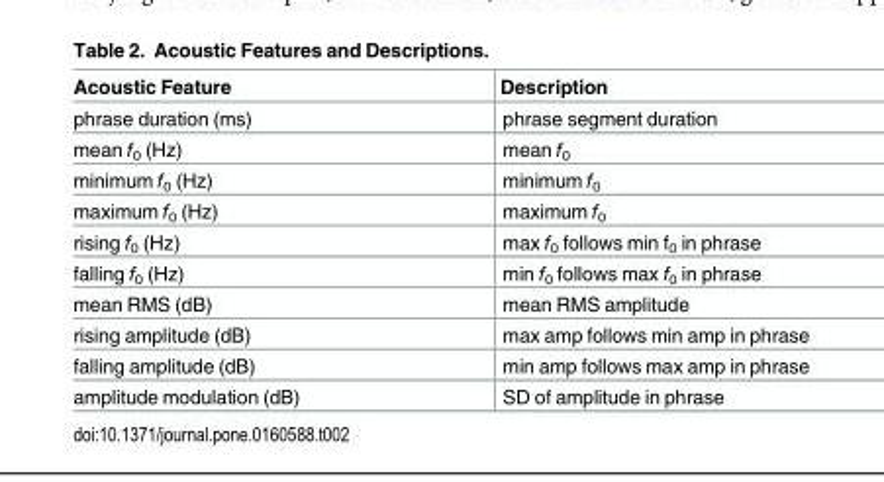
<table><thead><tr><td>Acoustic Feature</td><td>Description</td></tr></thead><tbody><tr><td>phrase duration (ms)</td><td>phrase segment duration</td></tr><tr><td>mean f<sub>0</sub> (Hz)</td><td>mean f<sub>0</sub></td></tr><tr><td>minimum f<sub>0</sub> (Hz)</td><td>minimum f<sub>0</sub></td></tr><tr><td>maximum f<sub>0</sub> (Hz)</td><td>maximum f<sub>0</sub></td></tr><tr><td>rising f<sub>0</sub> (Hz)</td><td>max f<sub>0</sub> follows min f<sub>0</sub> in phrase</td></tr><tr><td>falling f<sub>0</sub> (Hz)</td><td>min f<sub>0</sub> follows max f<sub>0</sub> in phrase</td></tr><tr><td>mean RMS (dB)</td><td>mean RMS amplitude</td></tr><tr><td>rising amplitude (dB)</td><td>max amp follows min amp in phrase</td></tr><tr><td>falling amplitude (dB)</td><td>min amp follows max amp in phrase</td></tr><tr><td>amplitude modulation (dB)</td><td>SD of amplitude in phrase</td></tr></tbody></table>